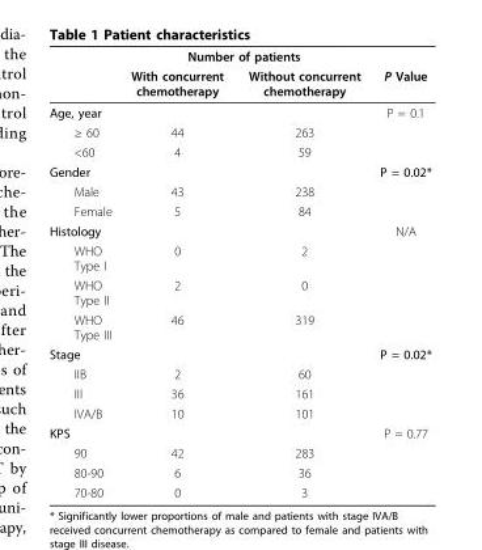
<table><thead><tr><td rowspan="2"></td><td colspan="2">Number of patients</td><td rowspan="2">P Value</td></tr><tr><td>With concurrent chemotherapy</td><td>Without concurrent chemotherapy</td></tr></thead><tbody><tr><td>Age, year</td><td></td><td></td><td>P = 0.1</td></tr><tr><td>≥ 60</td><td>44</td><td>263</td><td></td></tr><tr><td>&lt;60</td><td>4</td><td>59</td><td></td></tr><tr><td>Gender</td><td></td><td></td><td>P = 0.02*</td></tr><tr><td>Male</td><td>43</td><td>238</td><td></td></tr><tr><td>Female</td><td>5</td><td>84</td><td></td></tr><tr><td>Histology</td><td></td><td></td><td>N/A</td></tr><tr><td>WHO Type I</td><td>0</td><td>2</td><td></td></tr><tr><td>WHO Type II</td><td>2</td><td>0</td><td></td></tr><tr><td>WHO Type III</td><td>46</td><td>319</td><td></td></tr><tr><td>Stage</td><td></td><td></td><td>P = 0.02*</td></tr><tr><td>IIB</td><td>2</td><td>60</td><td></td></tr><tr><td>III</td><td>36</td><td>161</td><td></td></tr><tr><td>IVA/B</td><td>10</td><td>101</td><td></td></tr><tr><td>KPS</td><td></td><td></td><td>P = 0.77</td></tr><tr><td>90</td><td>42</td><td>283</td><td></td></tr><tr><td>80-90</td><td>6</td><td>36</td><td></td></tr><tr><td>70-80</td><td>0</td><td>3</td><td></td></tr></tbody></table>